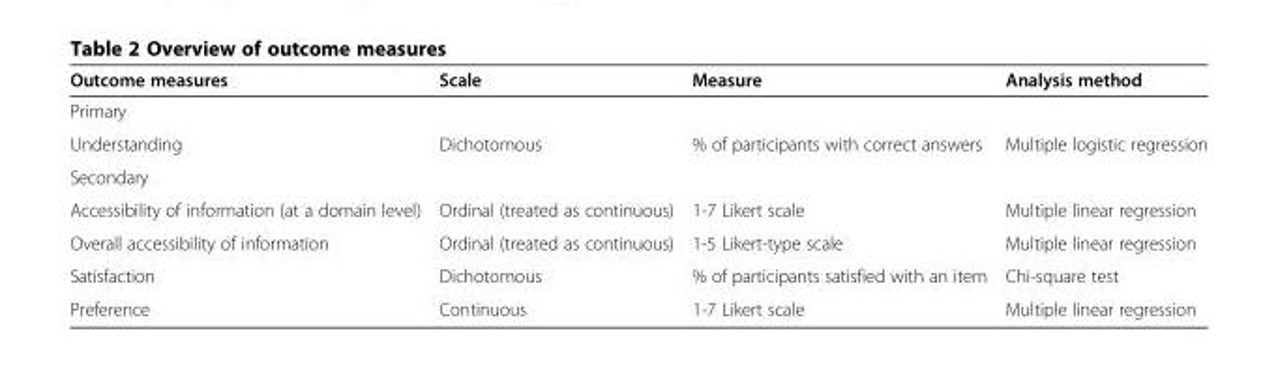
<table><thead><tr><td>Outcome measures</td><td>Scale</td><td>Measure</td><td>Analysis method</td></tr></thead><tbody><tr><td colspan="4">Primary</td></tr><tr><td>Understanding</td><td>Dichotomous</td><td>% of participants with correct answers</td><td>Multiple logistic regression</td></tr><tr><td colspan="4">Secondary</td></tr><tr><td>Accessibility of information (at a domain level)</td><td>Ordinal (treated as continuous)</td><td>1-7 Likert scale</td><td>Multiple linear regression</td></tr><tr><td>Overall accessibility of information</td><td>Ordinal (treated as continuous)</td><td>1-5 Likert-type scale</td><td>Multiple linear regression</td></tr><tr><td>Satisfaction</td><td>Dichotomous</td><td>% of participants satisfied with an item</td><td>Chi-square test</td></tr><tr><td>Preference</td><td>Continuous</td><td>1-7 Likert scale</td><td>Multiple linear regression</td></tr></tbody></table>